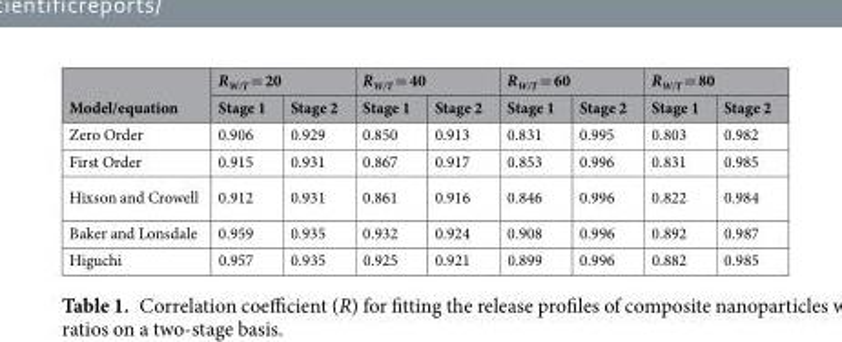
<table><thead><tr><td rowspan="2">Model/equation</td><td colspan="2">R<sub>W/T</sub> = 20</td><td colspan="2">R<sub>W/T</sub> = 40</td><td colspan="2">R<sub>W/T</sub> = 60</td><td colspan="2">R<sub>W/T</sub> = 80</td></tr><tr><td>Stage 1</td><td>Stage 2</td><td>Stage 1</td><td>Stage 2</td><td>Stage 1</td><td>Stage 2</td><td>Stage 1</td><td>Stage 2</td></tr></thead><tbody><tr><td>Zero Order</td><td>0.906</td><td>0.929</td><td>0.850</td><td>0.913</td><td>0.831</td><td>0.995</td><td>0.803</td><td>0.982</td></tr><tr><td>First Order</td><td>0.915</td><td>0.931</td><td>0.867</td><td>0.917</td><td>0.853</td><td>0.996</td><td>0.831</td><td>0.985</td></tr><tr><td>Hixson and Crowell</td><td>0.912</td><td>0.931</td><td>0.861</td><td>0.916</td><td>0.846</td><td>0.996</td><td>0.822</td><td>0.984</td></tr><tr><td>Baker and Lonsdale</td><td>0.959</td><td>0.935</td><td>0.932</td><td>0.924</td><td>0.908</td><td>0.996</td><td>0.892</td><td>0.987</td></tr><tr><td>Higuchi</td><td>0.957</td><td>0.935</td><td>0.925</td><td>0.921</td><td>0.899</td><td>0.996</td><td>0.882</td><td>0.985</td></tr></tbody></table>